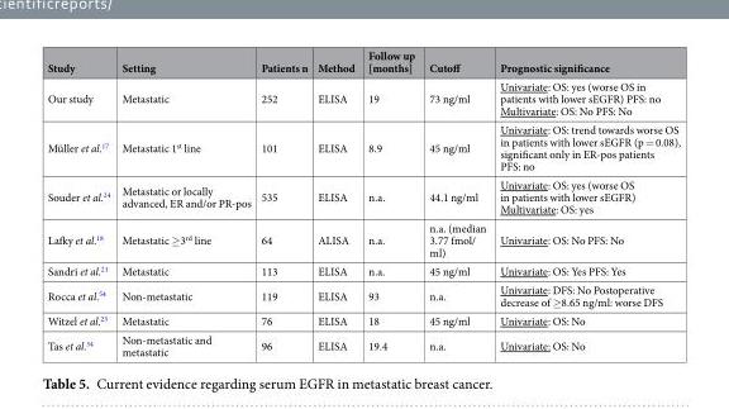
<table><thead><tr><td>Study</td><td>Setting</td><td>Patients n</td><td>Method</td><td>Follow up [months]</td><td>Cutoff</td><td>Prognostic significance</td></tr></thead><tbody><tr><td>Our study</td><td>Metastatic</td><td>252</td><td>ELISA</td><td>19</td><td>73 ng/ml</td><td>Univariate: OS: yes (worse OS in patients with lower sEGFR) PFS: no Multivariate: OS: No PFS: No</td></tr><tr><td>Müller et al.<sup>17</sup></td><td>Metastatic 1<sup>st</sup> line</td><td>101</td><td>ELISA</td><td>8.9</td><td>45 ng/ml</td><td>Univariate: OS: trend towards worse OS in patients with lower sEGFR (p = 0.08), significant only in ER-pos patients PFS: no</td></tr><tr><td>Souder et al.<sup>24</sup></td><td>Metastatic or locally advanced, ER and/or PR-pos</td><td>535</td><td>ELISA</td><td>n.a.</td><td>44.1 ng/ml</td><td>Univariate: OS: yes (worse OS in patients with lower sEGFR) Multivariate: OS: yes</td></tr><tr><td>Lafky et al.<sup>18</sup></td><td>Metastatic ≥3<sup>rd</sup> line</td><td>64</td><td>ALISA</td><td>n.a.</td><td>n.a. (median 3.77 fmol/ ml)</td><td>Univariate: OS: No PFS: No</td></tr><tr><td>Sandri et al.<sup>21</sup></td><td>Metastatic</td><td>113</td><td>ELISA</td><td>n.a.</td><td>45 ng/ml</td><td>Univariate: OS: Yes PFS: Yes</td></tr><tr><td>Rocca et al.<sup>54</sup></td><td>Non-metastatic</td><td>119</td><td>ELISA</td><td>93</td><td>n.a.</td><td>Univariate: DFS: No Postoperative decrease of ≥8.65 ng/ml: worse DFS</td></tr><tr><td>Witzel et al.<sup>23</sup></td><td>Metastatic</td><td>76</td><td>ELISA</td><td>18</td><td>45 ng/ml</td><td>Univariate: OS: No</td></tr><tr><td>Tas et al.<sup>34</sup></td><td>Non-metastatic and metastatic</td><td>96</td><td>ELISA</td><td>19.4</td><td>n.a.</td><td>Univariate: OS: No</td></tr></tbody></table>